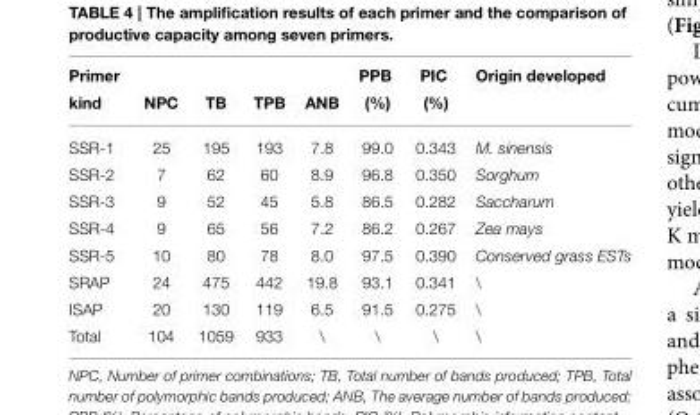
<table><thead><tr><td rowspan="2">Primer kind</td><td rowspan="2">NPC</td><td rowspan="2">TB</td><td rowspan="2">TPB</td><td rowspan="2">ANB</td><td rowspan="2">PPB (%)</td><td rowspan="2">PIC (%)</td><td rowspan="2">Origin developed</td></tr><tr></tr></thead><tbody><tr><td>SSR-1</td><td>25</td><td>195</td><td>193</td><td>7.8</td><td>99.0</td><td>0.343</td><td>M. sinensis</td></tr><tr><td>SSR-2</td><td>7</td><td>62</td><td>60</td><td>8.9</td><td>96.8</td><td>0.350</td><td>Sorghum</td></tr><tr><td>SSR-3</td><td>9</td><td>52</td><td>45</td><td>5.8</td><td>86.5</td><td>0.282</td><td>Saccharum</td></tr><tr><td>SSR-4</td><td>9</td><td>65</td><td>56</td><td>7.2</td><td>86.2</td><td>0.267</td><td>Zea mays</td></tr><tr><td>SSR-5</td><td>10</td><td>80</td><td>78</td><td>8.0</td><td>97.5</td><td>0.390</td><td>Conserved grass ESTs</td></tr><tr><td>SRAP</td><td>24</td><td>475</td><td>442</td><td>19.8</td><td>93.1</td><td>0.341</td><td>\</td></tr><tr><td>ISAP</td><td>20</td><td>130</td><td>119</td><td>6.5</td><td>91.5</td><td>0.275</td><td>\</td></tr><tr><td>Total</td><td>104</td><td>1059</td><td>933</td><td>\</td><td>\</td><td>\</td><td>\</td></tr></tbody></table>